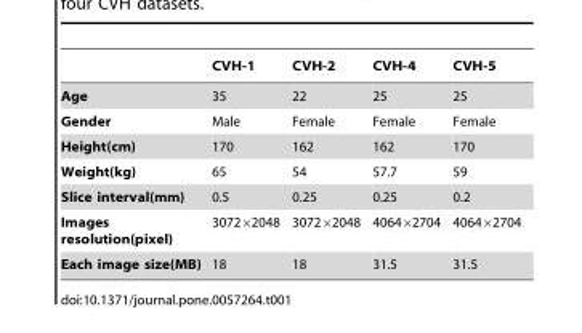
<table><thead><tr><td></td><td>CVH-1</td><td>CVH-2</td><td>CVH-4</td><td>CVH-5</td></tr></thead><tbody><tr><td>Age</td><td>35</td><td>22</td><td>25</td><td>25</td></tr><tr><td>Gender</td><td>Male</td><td>Female</td><td>Female</td><td>Female</td></tr><tr><td>Height(cm)</td><td>170</td><td>162</td><td>162</td><td>170</td></tr><tr><td>Weight(kg)</td><td>65</td><td>54</td><td>57.7</td><td>59</td></tr><tr><td>Slice interval(mm)</td><td>0.5</td><td>0.25</td><td>0.25</td><td>0.2</td></tr><tr><td>Images resolution(pixel)</td><td>3072×2048</td><td>3072×2048</td><td>4064×2704</td><td>4064×2704</td></tr><tr><td>Each image size(MB)</td><td>18</td><td>18</td><td>31.5</td><td>31.5</td></tr></tbody></table>